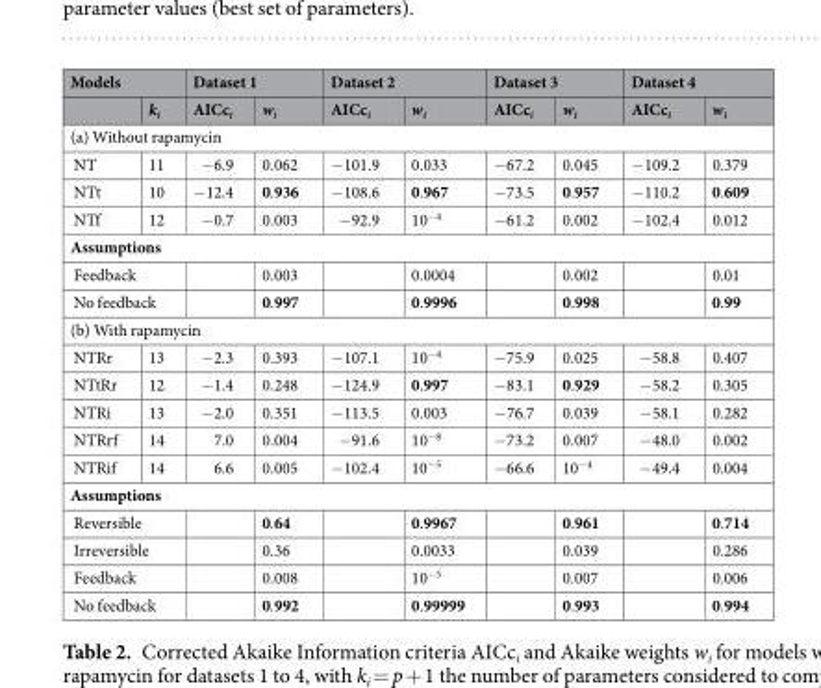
<table><thead><tr><td colspan="2">Models</td><td colspan="2">Dataset 1</td><td colspan="2">Dataset 2</td><td colspan="2">Dataset 3</td><td colspan="2">Dataset 4</td></tr><tr><td></td><td>k<sub>i</sub></td><td>AICc<sub>i</sub></td><td>w<sub>i</sub></td><td>AICc<sub>i</sub></td><td>w<sub>i</sub></td><td>AICc<sub>i</sub></td><td>w<sub>i</sub></td><td>AICc<sub>i</sub></td><td>w<sub>i</sub></td></tr></thead><tbody><tr><td colspan="10">(a) Without rapamycin</td></tr><tr><td>NT</td><td>11</td><td>−6.9</td><td>0.062</td><td>−101.9</td><td>0.033</td><td>−67.2</td><td>0.045</td><td>−109.2</td><td>0.379</td></tr><tr><td>NTt</td><td>10</td><td>−12.4</td><td>0.936</td><td>−108.6</td><td>0.967</td><td>−73.5</td><td>0.957</td><td>−110.2</td><td>0.609</td></tr><tr><td>NTf</td><td>12</td><td>−0.7</td><td>0.003</td><td>−92.9</td><td>10<sup>−4</sup></td><td>−61.2</td><td>0.002</td><td>−102.4</td><td>0.012</td></tr><tr><td colspan="10">Assumptions</td></tr><tr><td colspan="2">Feedback</td><td></td><td>0.003</td><td></td><td>0.0004</td><td></td><td>0.002</td><td></td><td>0.01</td></tr><tr><td colspan="2">No feedback</td><td></td><td>0.997</td><td></td><td>0.9996</td><td></td><td>0.998</td><td></td><td>0.99</td></tr><tr><td colspan="10">(b) With rapamycin</td></tr><tr><td>NTRr</td><td>13</td><td>−2.3</td><td>0.393</td><td>−107.1</td><td>10<sup>−4</sup></td><td>−75.9</td><td>0.025</td><td>−58.8</td><td>0.407</td></tr><tr><td>NTtRr</td><td>12</td><td>−1.4</td><td>0.248</td><td>−124.9</td><td>0.997</td><td>−83.1</td><td>0.929</td><td>−58.2</td><td>0.305</td></tr><tr><td>NTRi</td><td>13</td><td>−2.0</td><td>0.351</td><td>−113.5</td><td>0.003</td><td>−76.7</td><td>0.039</td><td>−58.1</td><td>0.282</td></tr><tr><td>NTRrf</td><td>14</td><td>7.0</td><td>0.004</td><td>−91.6</td><td>10<sup>−8</sup></td><td>−73.2</td><td>0.007</td><td>−48.0</td><td>0.002</td></tr><tr><td>NTRif</td><td>14</td><td>6.6</td><td>0.005</td><td>−102.4</td><td>10<sup>−5</sup></td><td>−66.6</td><td>10<sup>−4</sup></td><td>−49.4</td><td>0.004</td></tr><tr><td colspan="10">Assumptions</td></tr><tr><td colspan="2">Reversible</td><td></td><td>0.64</td><td></td><td>0.9967</td><td></td><td>0.961</td><td></td><td>0.714</td></tr><tr><td colspan="2">Irreversible</td><td></td><td>0.36</td><td></td><td>0.0033</td><td></td><td>0.039</td><td></td><td>0.286</td></tr><tr><td colspan="2">Feedback</td><td></td><td>0.008</td><td></td><td>10<sup>−5</sup></td><td></td><td>0.007</td><td></td><td>0.006</td></tr><tr><td colspan="2">No feedback</td><td></td><td>0.992</td><td></td><td>0.99999</td><td></td><td>0.993</td><td></td><td>0.994</td></tr></tbody></table>